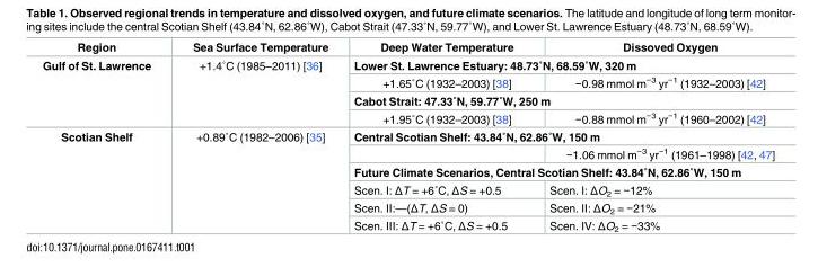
<table><thead><tr><td>Region</td><td>Sea Surface Temperature</td><td>Deep Water Temperature</td><td>Dissoved Oxygen</td></tr></thead><tbody><tr><td rowspan="4">Gulf of St. Lawrence</td><td rowspan="4">+1.4˚C (1985–2011) [36]</td><td colspan="2">Lower St. Lawrence Estuary: 48.73˚N, 68.59˚W, 320 m</td></tr><tr><td>+1.65˚C (1932–2003) [38]</td><td>−0.98 mmol m<sup>−3</sup> yr<sup>−1</sup> (1932–2003) [42]</td></tr><tr><td colspan="2">Cabot Strait: 47.33˚N, 59.77˚W, 250 m</td></tr><tr><td>+1.95˚C (1932–2003) [38]</td><td>−0.88 mmol m<sup>−3</sup> yr<sup>−1</sup> (1960–2002) [42]</td></tr><tr><td rowspan="6">Scotian Shelf</td><td rowspan="6">+0.89˚C (1982–2006) [35]</td><td colspan="2">Central Scotian Shelf: 43.84˚N, 62.86˚W, 150 m</td></tr><tr><td></td><td>−1.06 mmol m<sup>−3</sup> yr<sup>−1</sup> (1961–1998) [42, 47]</td></tr><tr><td colspan="2">Future Climate Scenarios, Central Scotian Shelf: 43.84˚N, 62.86˚W, 150 m</td></tr><tr><td>Scen. I: ΔT = +6˚C, ΔS = +0.5</td><td>Scen. I: ΔO<sub>2</sub> = −12%</td></tr><tr><td>Scen. II:—(ΔT, ΔS = 0)</td><td>Scen. II: ΔO<sub>2</sub> = −21%</td></tr><tr><td>Scen. III: ΔT = +6˚C, ΔS = +0.5</td><td>Scen. IV: ΔO<sub>2</sub> = −33%</td></tr></tbody></table>